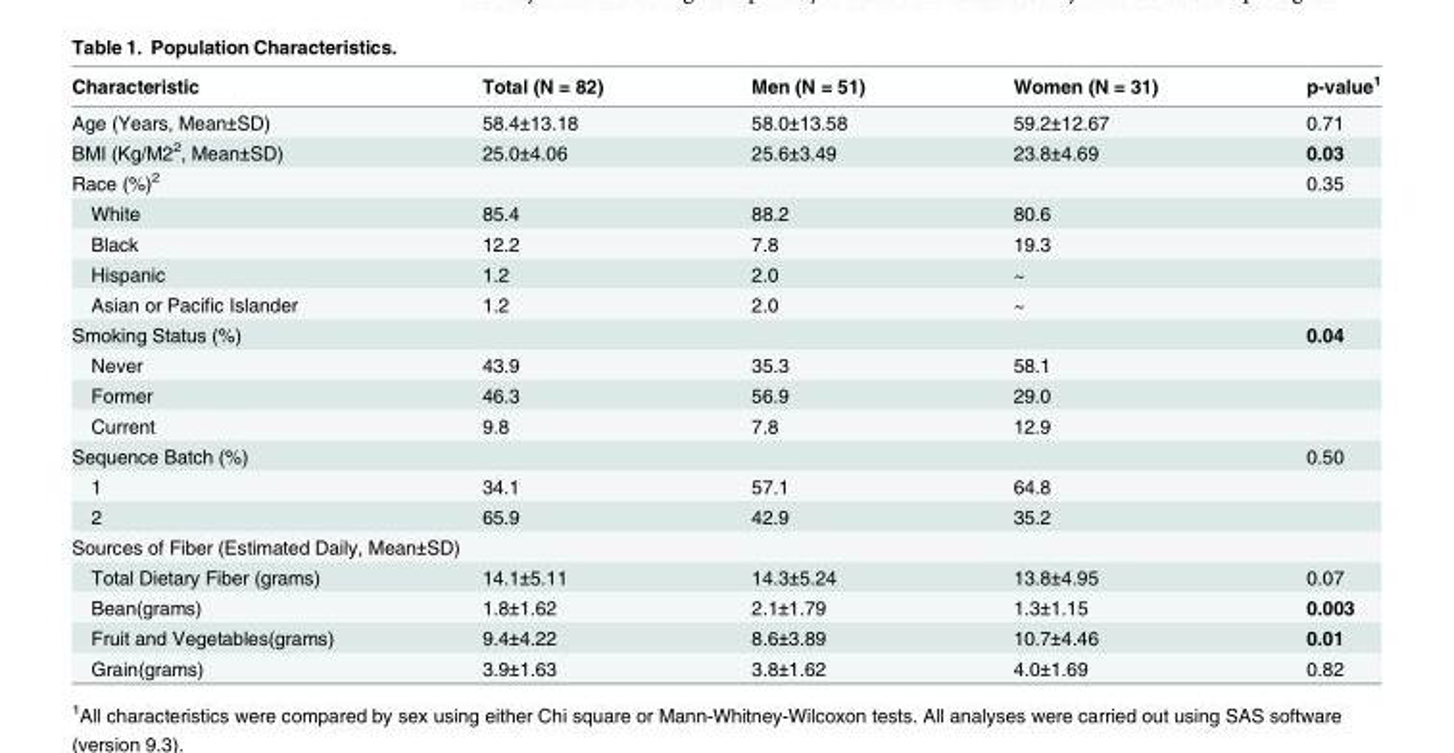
<table><thead><tr><td>Characteristic</td><td>Total (N = 82)</td><td>Men (N = 51)</td><td>Women (N = 31)</td><td>p-value<sup>1</sup></td></tr></thead><tbody><tr><td>Age (Years, Mean±SD)</td><td>58.4±13.18</td><td>58.0±13.58</td><td>59.2±12.67</td><td>0.71</td></tr><tr><td>BMI (Kg/M2<sup>2</sup>, Mean±SD)</td><td>25.0±4.06</td><td>25.6±3.49</td><td>23.8±4.69</td><td>0.03</td></tr><tr><td>Race (%)<sup>2</sup></td><td></td><td></td><td></td><td>0.35</td></tr><tr><td>White</td><td>85.4</td><td>88.2</td><td>80.6</td><td></td></tr><tr><td>Black</td><td>12.2</td><td>7.8</td><td>19.3</td><td></td></tr><tr><td>Hispanic</td><td>1.2</td><td>2.0</td><td>~</td><td></td></tr><tr><td>Asian or Pacific Islander</td><td>1.2</td><td>2.0</td><td>~</td><td></td></tr><tr><td>Smoking Status (%)</td><td></td><td></td><td></td><td>0.04</td></tr><tr><td>Never</td><td>43.9</td><td>35.3</td><td>58.1</td><td></td></tr><tr><td>Former</td><td>46.3</td><td>56.9</td><td>29.0</td><td></td></tr><tr><td>Current</td><td>9.8</td><td>7.8</td><td>12.9</td><td></td></tr><tr><td>Sequence Batch (%)</td><td></td><td></td><td></td><td>0.50</td></tr><tr><td>1</td><td>34.1</td><td>57.1</td><td>64.8</td><td></td></tr><tr><td>2</td><td>65.9</td><td>42.9</td><td>35.2</td><td></td></tr><tr><td colspan="5">Sources of Fiber (Estimated Daily, Mean±SD)</td></tr><tr><td>Total Dietary Fiber (grams)</td><td>14.1±5.11</td><td>14.3±5.24</td><td>13.8±4.95</td><td>0.07</td></tr><tr><td>Bean(grams)</td><td>1.8±1.62</td><td>2.1±1.79</td><td>1.3±1.15</td><td>0.003</td></tr><tr><td>Fruit and Vegetables(grams)</td><td>9.4±4.22</td><td>8.6±3.89</td><td>10.7±4.46</td><td>0.01</td></tr><tr><td>Grain(grams)</td><td>3.9±1.63</td><td>3.8±1.62</td><td>4.0±1.69</td><td>0.82</td></tr></tbody></table>